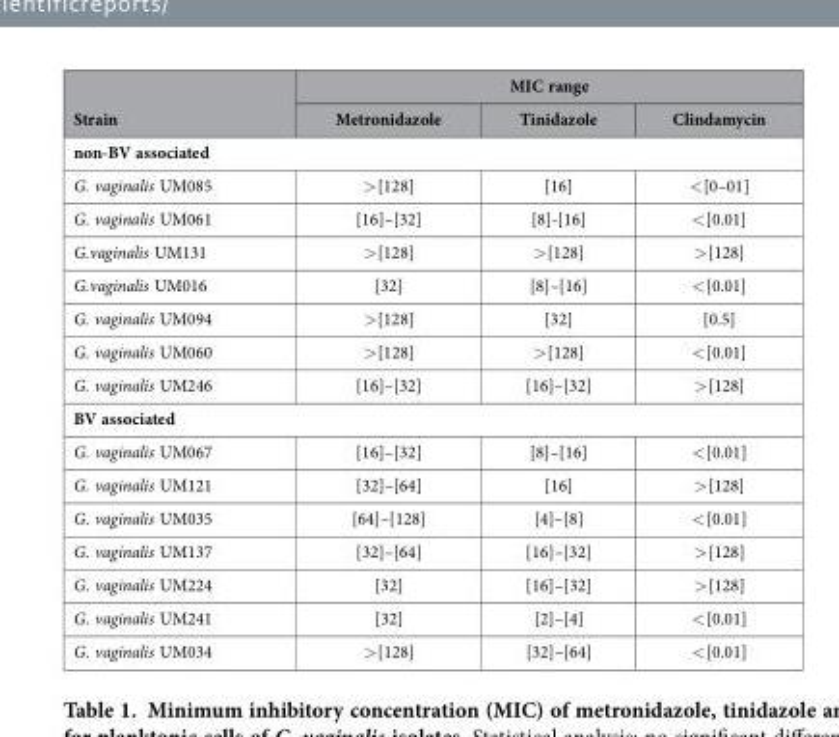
<table><thead><tr><td rowspan="2">Strain</td><td colspan="3">MIC range</td></tr><tr><td>Metronidazole</td><td>Tinidazole</td><td>Clindamycin</td></tr></thead><tbody><tr><td colspan="4">non-BV associated</td></tr><tr><td>G. vaginalis UM085</td><td>&gt; [128]</td><td>[16]</td><td>&lt; [0–01]</td></tr><tr><td>G. vaginalis UM061</td><td>[16]–[32]</td><td>[8]-[16]</td><td>&lt; [0.01]</td></tr><tr><td>G.vaginalis UM131</td><td>&gt; [128]</td><td>&gt; [128]</td><td>&gt; [128]</td></tr><tr><td>G.vaginalis UM016</td><td>[32]</td><td>[8]–[16]</td><td>&lt; [0.01]</td></tr><tr><td>G. vaginalis UM094</td><td>&gt; [128]</td><td>[32]</td><td>[0.5]</td></tr><tr><td>G. vaginalis UM060</td><td>&gt; [128]</td><td>&gt; [128]</td><td>&lt; [0.01]</td></tr><tr><td>G. vaginalis UM246</td><td>[16]–[32]</td><td>[16]–[32]</td><td>&gt; [128]</td></tr><tr><td colspan="4">BV associated</td></tr><tr><td>G. vaginalis UM067</td><td>[16]–[32]</td><td>[8]–[16]</td><td>&lt; [0.01]</td></tr><tr><td>G. vaginalis UM121</td><td>[32]–[64]</td><td>[16]</td><td>&gt; [128]</td></tr><tr><td>G. vaginalis UM035</td><td>[64]–[128]</td><td>[4]–[8]</td><td>&lt; [0.01]</td></tr><tr><td>G. vaginalis UM137</td><td>[32]–[64]</td><td>[16]–[32]</td><td>&gt; [128]</td></tr><tr><td>G. vaginalis UM224</td><td>[32]</td><td>[16]–[32]</td><td>&gt; [128]</td></tr><tr><td>G. vaginalis UM241</td><td>[32]</td><td>[2]–[4]</td><td>&lt; [0.01]</td></tr><tr><td>G. vaginalis UM034</td><td>&gt; [128]</td><td>[32]–[64]</td><td>&lt; [0.01]</td></tr></tbody></table>